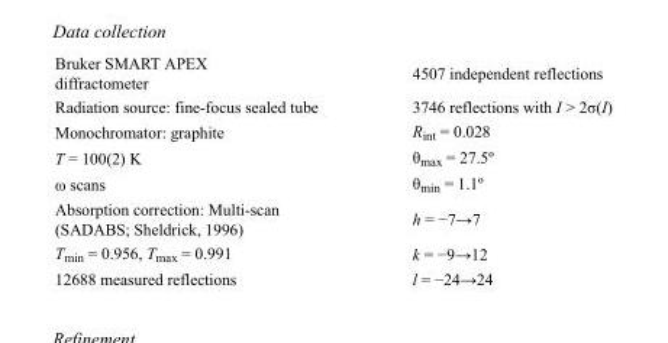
<table><tbody><tr><td>Bruker SMART APEX diffractometer</td><td>4507 independent reflections</td></tr><tr><td>Radiation source: fine-focus sealed tube</td><td>3746 reflections with I &gt; 2σ(I)</td></tr><tr><td>Monochromator: graphite</td><td>R<sub>int</sub> = 0.028</td></tr><tr><td>T = 100(2) K</td><td>θ<sub>max</sub> = 27.5º</td></tr><tr><td>ω scans</td><td>θ<sub>min</sub> = 1.1º</td></tr><tr><td>Absorption correction: Multi-scan (SADABS; Sheldrick, 1996)</td><td>h = −7→7</td></tr><tr><td>T<sub>min</sub> = 0.956, T<sub>max</sub> = 0.991</td><td>k = −9→12</td></tr><tr><td>12688 measured reflections</td><td>l = −24→24</td></tr></tbody></table>